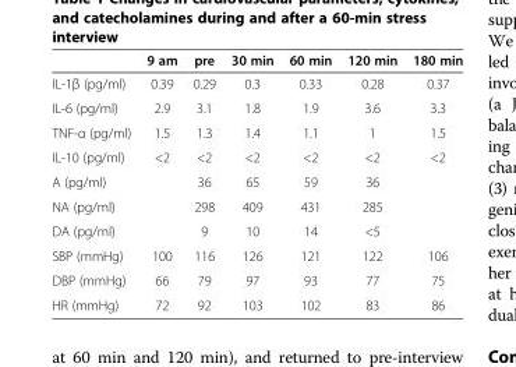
<table><thead><tr><td></td><td>9 am</td><td>pre</td><td>30 min</td><td>60 min</td><td>120 min</td><td>180 min</td></tr></thead><tbody><tr><td>IL-1β (pg/ml)</td><td>0.39</td><td>0.29</td><td>0.3</td><td>0.33</td><td>0.28</td><td>0.37</td></tr><tr><td>IL-6 (pg/ml)</td><td>2.9</td><td>3.1</td><td>1.8</td><td>1.9</td><td>3.6</td><td>3.3</td></tr><tr><td>TNF-α (pg/ml)</td><td>1.5</td><td>1.3</td><td>1.4</td><td>1.1</td><td>1</td><td>1.5</td></tr><tr><td>IL-10 (pg/ml)</td><td>&lt;2</td><td>&lt;2</td><td>&lt;2</td><td>&lt;2</td><td>&lt;2</td><td>&lt;2</td></tr><tr><td>A (pg/ml)</td><td></td><td>36</td><td>65</td><td>59</td><td>36</td><td></td></tr><tr><td>NA (pg/ml)</td><td></td><td>298</td><td>409</td><td>431</td><td>285</td><td></td></tr><tr><td>DA (pg/ml)</td><td></td><td>9</td><td>10</td><td>14</td><td>&lt;5</td><td></td></tr><tr><td>SBP (mmHg)</td><td>100</td><td>116</td><td>126</td><td>121</td><td>122</td><td>106</td></tr><tr><td>DBP (mmHg)</td><td>66</td><td>79</td><td>97</td><td>93</td><td>77</td><td>75</td></tr><tr><td>HR (mmHg)</td><td>72</td><td>92</td><td>103</td><td>102</td><td>83</td><td>86</td></tr></tbody></table>